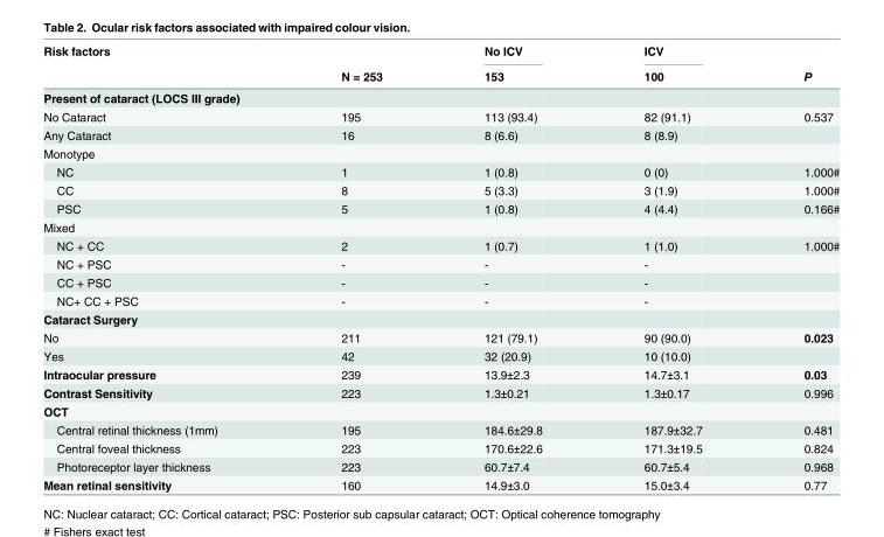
<table><thead><tr><td rowspan="2">Risk factors</td><td rowspan="2">N = 253</td><td rowspan="2">No ICV 153</td><td rowspan="2">ICV 100</td><td rowspan="2">P</td></tr><tr></tr></thead><tbody><tr><td colspan="5">Present of cataract (LOCS III grade)</td></tr><tr><td>No Cataract</td><td>195</td><td>113 (93.4)</td><td>82 (91.1)</td><td>0.537</td></tr><tr><td>Any Cataract</td><td>16</td><td>8 (6.6)</td><td>8 (8.9)</td><td></td></tr><tr><td colspan="5">Monotype</td></tr><tr><td>NC</td><td>1</td><td>1 (0.8)</td><td>0 (0)</td><td>1.000#</td></tr><tr><td>CC</td><td>8</td><td>5 (3.3)</td><td>3 (1.9)</td><td>1.000#</td></tr><tr><td>PSC</td><td>5</td><td>1 (0.8)</td><td>4 (4.4)</td><td>0.166#</td></tr><tr><td colspan="5">Mixed</td></tr><tr><td>NC + CC</td><td>2</td><td>1 (0.7)</td><td>1 (1.0)</td><td>1.000#</td></tr><tr><td>NC + PSC</td><td>-</td><td>-</td><td>-</td><td></td></tr><tr><td>CC + PSC</td><td>-</td><td>-</td><td>-</td><td></td></tr><tr><td>NC+ CC + PSC</td><td>-</td><td>-</td><td>-</td><td></td></tr><tr><td colspan="5">Cataract Surgery</td></tr><tr><td>No</td><td>211</td><td>121 (79.1)</td><td>90 (90.0)</td><td>0.023</td></tr><tr><td>Yes</td><td>42</td><td>32 (20.9)</td><td>10 (10.0)</td><td></td></tr><tr><td>Intraocular pressure</td><td>239</td><td>13.9±2.3</td><td>14.7±3.1</td><td>0.03</td></tr><tr><td>Contrast Sensitivity</td><td>223</td><td>1.3±0.21</td><td>1.3±0.17</td><td>0.996</td></tr><tr><td colspan="5">OCT</td></tr><tr><td>Central retinal thickness (1mm)</td><td>195</td><td>184.6±29.8</td><td>187.9±32.7</td><td>0.481</td></tr><tr><td>Central foveal thickness</td><td>223</td><td>170.6±22.6</td><td>171.3±19.5</td><td>0.824</td></tr><tr><td>Photoreceptor layer thickness</td><td>223</td><td>60.7±7.4</td><td>60.7±5.4</td><td>0.968</td></tr><tr><td>Mean retinal sensitivity</td><td>160</td><td>14.9±3.0</td><td>15.0±3.4</td><td>0.77</td></tr></tbody></table>